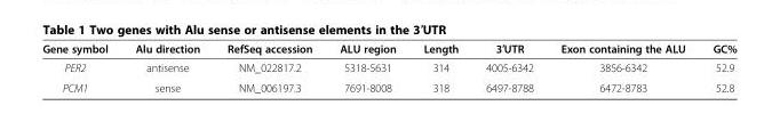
<table><thead><tr><td>Gene symbol</td><td>Alu direction</td><td>RefSeq accession</td><td>ALU region</td><td>Length</td><td>3′UTR</td><td>Exon containing the ALU</td><td>GC%</td></tr></thead><tbody><tr><td>PER2</td><td>antisense</td><td>NM_022817.2</td><td>5318-5631</td><td>314</td><td>4005-6342</td><td>3856-6342</td><td>52.9</td></tr><tr><td>PCM1</td><td>sense</td><td>NM_006197.3</td><td>7691-8008</td><td>318</td><td>6497-8788</td><td>6472-8783</td><td>52.8</td></tr></tbody></table>